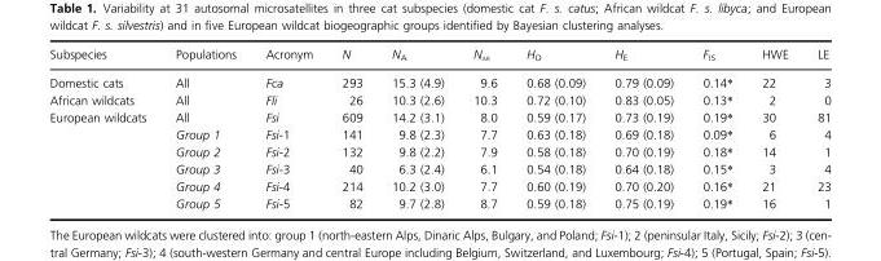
<table><thead><tr><td>Subspecies</td><td>Populations</td><td>Acronym</td><td>N</td><td>N<sub>A</sub></td><td>N<sub>AR</sub></td><td>H<sub>O</sub></td><td>H<sub>E</sub></td><td>F<sub>IS</sub></td><td>HWE</td><td>LE</td></tr></thead><tbody><tr><td>Domestic cats</td><td>All</td><td>Fca</td><td>293</td><td>15.3 (4.9)</td><td>9.6</td><td>0.68 (0.09)</td><td>0.79 (0.09)</td><td>0.14*</td><td>22</td><td>3</td></tr><tr><td>African wildcats</td><td>All</td><td>Fli</td><td>26</td><td>10.3 (2.6)</td><td>10.3</td><td>0.72 (0.10)</td><td>0.83 (0.05)</td><td>0.13*</td><td>2</td><td>0</td></tr><tr><td rowspan="6">European wildcats</td><td>All</td><td>Fsi</td><td>609</td><td>14.2 (3.1)</td><td>8.0</td><td>0.59 (0.17)</td><td>0.73 (0.19)</td><td>0.19*</td><td>30</td><td>81</td></tr><tr><td>Group 1</td><td>Fsi-1</td><td>141</td><td>9.8 (2.3)</td><td>7.7</td><td>0.63 (0.18)</td><td>0.69 (0.18)</td><td>0.09*</td><td>6</td><td>4</td></tr><tr><td>Group 2</td><td>Fsi-2</td><td>132</td><td>9.8 (2.2)</td><td>7.9</td><td>0.58 (0.18)</td><td>0.70 (0.19)</td><td>0.18*</td><td>14</td><td>1</td></tr><tr><td>Group 3</td><td>Fsi-3</td><td>40</td><td>6.3 (2.4)</td><td>6.1</td><td>0.54 (0.18)</td><td>0.64 (0.18)</td><td>0.15*</td><td>3</td><td>4</td></tr><tr><td>Group 4</td><td>Fsi-4</td><td>214</td><td>10.2 (3.0)</td><td>7.7</td><td>0.60 (0.19)</td><td>0.70 (0.20)</td><td>0.16*</td><td>21</td><td>23</td></tr><tr><td>Group 5</td><td>Fsi-5</td><td>82</td><td>9.7 (2.8)</td><td>8.7</td><td>0.59 (0.18)</td><td>0.75 (0.19)</td><td>0.19*</td><td>16</td><td>1</td></tr></tbody></table>